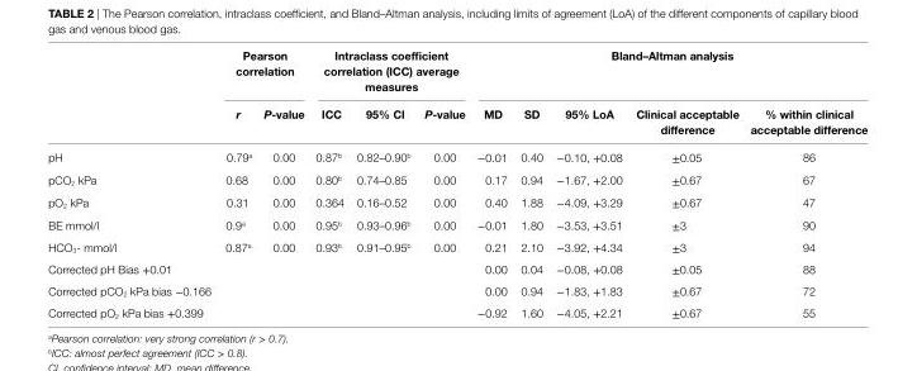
<table><thead><tr><td rowspan="2"></td><td colspan="2">Pearson correlation</td><td colspan="3">intraclass coefficient correlation (icc) average measures</td><td colspan="5">Bland–altman analysis</td></tr><tr><td>r</td><td>P-value</td><td>icc</td><td>95% ci</td><td>P-value</td><td>MD</td><td>sD</td><td>95% loa</td><td>clinical acceptable difference</td><td>% within clinical acceptable difference</td></tr></thead><tbody><tr><td>pH</td><td>0.79<sup>a</sup></td><td>0.00</td><td>0.87<sup>b</sup></td><td>0.82–0.90<sup>b</sup></td><td>0.00</td><td>−0.01</td><td>0.40</td><td>−0.10, +0.08</td><td>±0.05</td><td>86</td></tr><tr><td>pCO<sub>2</sub> kPa</td><td>0.68</td><td>0.00</td><td>0.80<sup>b</sup></td><td>0.74–0.85</td><td>0.00</td><td>0.17</td><td>0.94</td><td>−1.67, +2.00</td><td>±0.67</td><td>67</td></tr><tr><td>pO<sub>2</sub> kPa</td><td>0.31</td><td>0.00</td><td>0.364</td><td>0.16–0.52</td><td>0.00</td><td>0.40</td><td>1.88</td><td>−4.09, +3.29</td><td>±0.67</td><td>47</td></tr><tr><td>BE mmol/l</td><td>0.9<sup>a</sup></td><td>0.00</td><td>0.95<sup>b</sup></td><td>0.93–0.96<sup>b</sup></td><td>0.00</td><td>−0.01</td><td>1.80</td><td>−3.53, +3.51</td><td>±3</td><td>90</td></tr><tr><td>HCO<sub>3</sub>- mmol/l</td><td>0.87<sup>a</sup></td><td>0.00</td><td>0.93<sup>b</sup></td><td>0.91–0.95<sup>b</sup></td><td>0.00</td><td>0.21</td><td>2.10</td><td>−3.92, +4.34</td><td>±3</td><td>94</td></tr><tr><td>Corrected pH Bias +0.01</td><td></td><td></td><td></td><td></td><td></td><td>0.00</td><td>0.04</td><td>−0.08, +0.08</td><td>±0.05</td><td>88</td></tr><tr><td>Corrected pCO<sub>2</sub> kPa bias −0.166</td><td></td><td></td><td></td><td></td><td></td><td>0.00</td><td>0.94</td><td>−1.83, +1.83</td><td>±0.67</td><td>72</td></tr><tr><td>Corrected pO<sub>2</sub> kPa bias +0.399</td><td></td><td></td><td></td><td></td><td></td><td>−0.92</td><td>1.60</td><td>−4.05, +2.21</td><td>±0.67</td><td>55</td></tr></tbody></table>